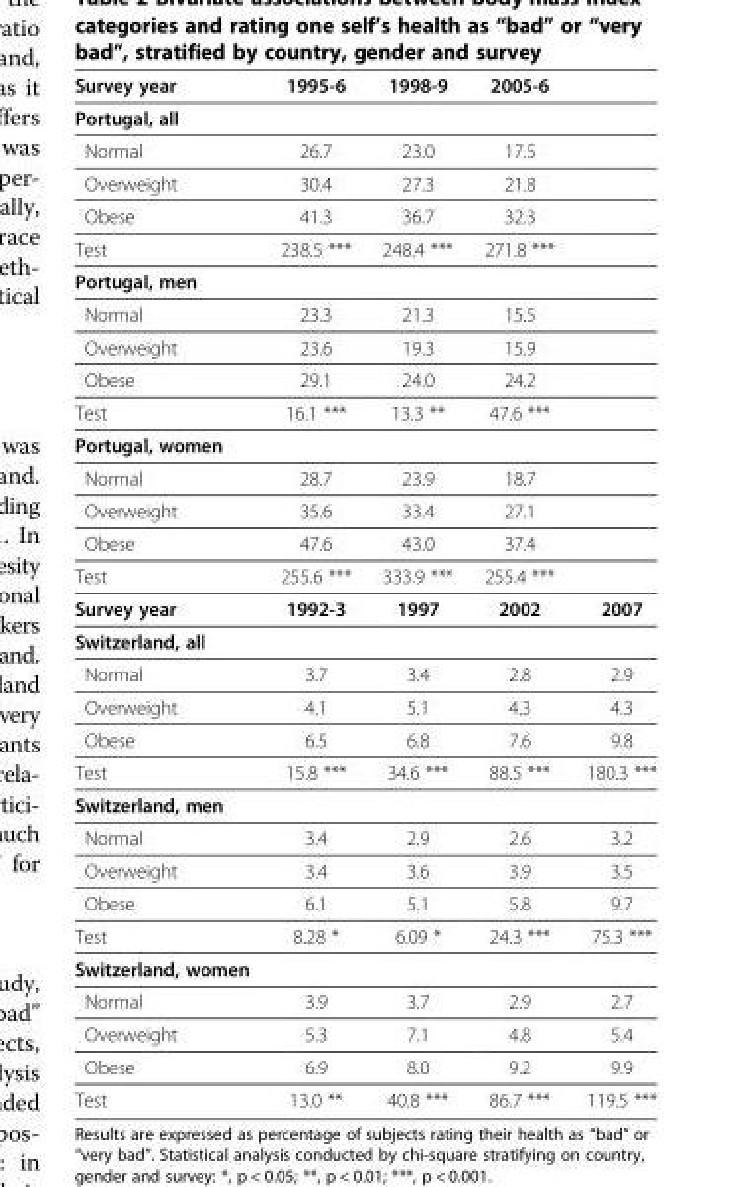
<table><thead><tr><td>Survey year</td><td>1995-6</td><td>1998-9</td><td>2005-6</td><td></td></tr></thead><tbody><tr><td colspan="5">Portugal, all</td></tr><tr><td>Normal</td><td>26.7</td><td>23.0</td><td>17.5</td><td></td></tr><tr><td>Overweight</td><td>30.4</td><td>27.3</td><td>21.8</td><td></td></tr><tr><td>Obese</td><td>41.3</td><td>36.7</td><td>32.3</td><td></td></tr><tr><td>Test</td><td>238.5 ***</td><td>248.4 ***</td><td>271.8 ***</td><td></td></tr><tr><td colspan="5">Portugal, men</td></tr><tr><td>Normal</td><td>23.3</td><td>21.3</td><td>15.5</td><td></td></tr><tr><td>Overweight</td><td>23.6</td><td>19.3</td><td>15.9</td><td></td></tr><tr><td>Obese</td><td>29.1</td><td>24.0</td><td>24.2</td><td></td></tr><tr><td>Test</td><td>16.1 ***</td><td>13.3 **</td><td>47.6 ***</td><td></td></tr><tr><td colspan="5">Portugal, women</td></tr><tr><td>Normal</td><td>28.7</td><td>23.9</td><td>18.7</td><td></td></tr><tr><td>Overweight</td><td>35.6</td><td>33.4</td><td>27.1</td><td></td></tr><tr><td>Obese</td><td>47.6</td><td>43.0</td><td>37.4</td><td></td></tr><tr><td>Test</td><td>255.6 ***</td><td>333.9 ***</td><td>255.4 ***</td><td></td></tr><tr><td>Survey year</td><td>1992-3</td><td>1997</td><td>2002</td><td>2007</td></tr><tr><td colspan="5">Switzerland, all</td></tr><tr><td>Normal</td><td>3.7</td><td>3.4</td><td>2.8</td><td>2.9</td></tr><tr><td>Overweight</td><td>4.1</td><td>5.1</td><td>4.3</td><td>4.3</td></tr><tr><td>Obese</td><td>6.5</td><td>6.8</td><td>7.6</td><td>9.8</td></tr><tr><td>Test</td><td>15.8 ***</td><td>34.6 ***</td><td>88.5 ***</td><td>180.3 ***</td></tr><tr><td colspan="5">Switzerland, men</td></tr><tr><td>Normal</td><td>3.4</td><td>2.9</td><td>2.6</td><td>3.2</td></tr><tr><td>Overweight</td><td>3.4</td><td>3.6</td><td>3.9</td><td>3.5</td></tr><tr><td>Obese</td><td>6.1</td><td>5.1</td><td>5.8</td><td>9.7</td></tr><tr><td>Test</td><td>8.28 *</td><td>6.09 *</td><td>24.3 ***</td><td>75.3 ***</td></tr><tr><td colspan="5">Switzerland, women</td></tr><tr><td>Normal</td><td>3.9</td><td>3.7</td><td>2.9</td><td>2.7</td></tr><tr><td>Overweight</td><td>5.3</td><td>7.1</td><td>4.8</td><td>5.4</td></tr><tr><td>Obese</td><td>6.9</td><td>8.0</td><td>9.2</td><td>9.9</td></tr><tr><td>Test</td><td>13.0 **</td><td>40.8 ***</td><td>86.7 ***</td><td>119.5 ***</td></tr></tbody></table>